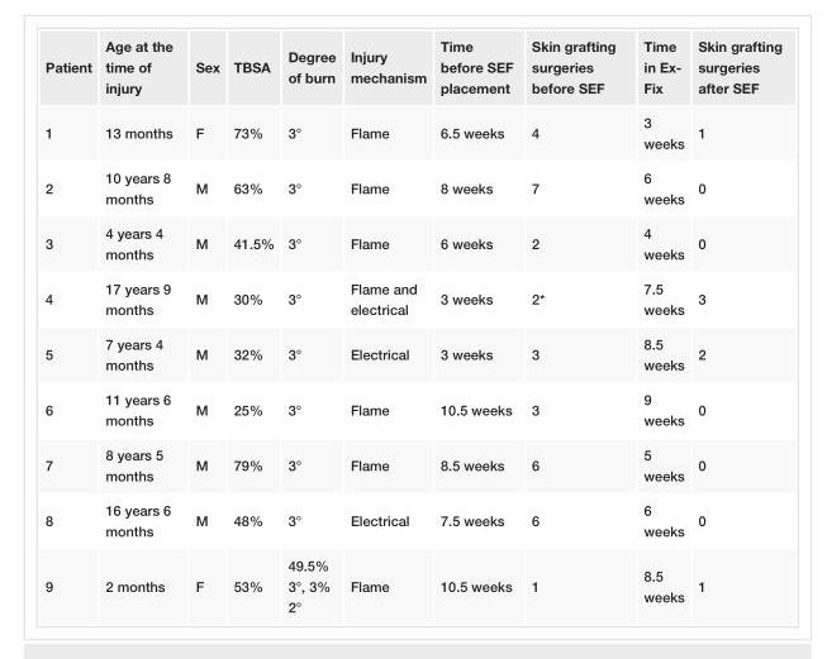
<table><tbody><tr><td>Patient</td><td>Age at the time of injury</td><td>Sex</td><td>TBSA</td><td>Degree of burn</td><td>Injury mechanism</td><td>Time before SEF placement</td><td>Skin grafting surgeries before SEF</td><td>Time in Ex- Fix</td><td>Skin grafting surgeries after SEF</td></tr><tr><td>1</td><td>13 months</td><td>F</td><td>73%</td><td>3°</td><td>Flame</td><td>6.5 weeks</td><td>4</td><td>3 weeks</td><td>1</td></tr><tr><td>2</td><td>10 years 8 months</td><td>M</td><td>63%</td><td>3°</td><td>Flame</td><td>8 weeks</td><td>7</td><td>6 weeks</td><td>0</td></tr><tr><td>3</td><td>4 years 4 months</td><td>M</td><td>41.5%</td><td>3°</td><td>Flame</td><td>6 weeks</td><td>2</td><td>4 weeks</td><td>0</td></tr><tr><td>4</td><td>17 years 9 months</td><td>M</td><td>30%</td><td>3°</td><td>Flame and electrical</td><td>3 weeks</td><td>2*</td><td>7.5 weeks</td><td>3</td></tr><tr><td>5</td><td>7 years 4 months</td><td>M</td><td>32%</td><td>3°</td><td>Electrical</td><td>3 weeks</td><td>3</td><td>8.5 weeks</td><td>2</td></tr><tr><td>6</td><td>11 years 6 months</td><td>M</td><td>25%</td><td>3°</td><td>Flame</td><td>10.5 weeks</td><td>3</td><td>9 weeks</td><td>0</td></tr><tr><td>7</td><td>8 years 5 months</td><td>M</td><td>79%</td><td>3°</td><td>Flame</td><td>8.5 weeks</td><td>6</td><td>5 weeks</td><td>0</td></tr><tr><td>8</td><td>16 years 6 months</td><td>M</td><td>48%</td><td>3°</td><td>Electrical</td><td>7.5 weeks</td><td>6</td><td>6 weeks</td><td>0</td></tr><tr><td>9</td><td>2 months</td><td>F</td><td>53%</td><td>49.5% 3°, 3% 2°</td><td>Flame</td><td>10.5 weeks</td><td>1</td><td>8.5 weeks</td><td>1</td></tr></tbody></table>